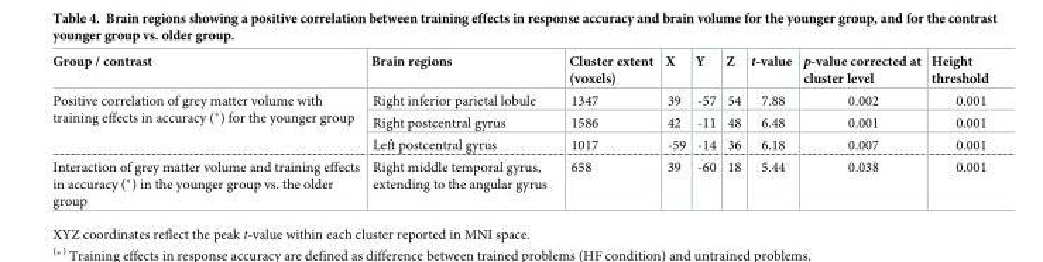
<table><thead><tr><td>Group / contrast</td><td>Brain regions</td><td>Cluster extent (voxels)</td><td>X</td><td>Y</td><td>Z</td><td>t-value</td><td>p-value corrected at cluster level</td><td>Height threshold</td></tr></thead><tbody><tr><td rowspan="3">Positive correlation of grey matter volume with training effects in accuracy (*) for the younger group</td><td>Right inferior parietal lobule</td><td>1347</td><td>39</td><td>-57</td><td>54</td><td>7.88</td><td>0.002</td><td>0.001</td></tr><tr><td>Right postcentral gyrus</td><td>1586</td><td>42</td><td>-11</td><td>48</td><td>6.48</td><td>0.001</td><td>0.001</td></tr><tr><td>Left postcentral gyrus</td><td>1017</td><td>-59</td><td>-14</td><td>36</td><td>6.18</td><td>0.007</td><td>0.001</td></tr><tr><td>Interaction of grey matter volume and training effects in accuracy (*) in the younger group vs. the older group</td><td>Right middle temporal gyrus, extending to the angular gyrus</td><td>658</td><td>39</td><td>-60</td><td>18</td><td>5.44</td><td>0.038</td><td>0.001</td></tr></tbody></table>